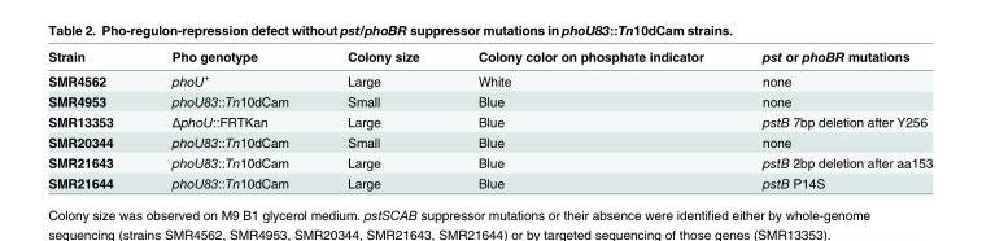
<table><thead><tr><td>Strain</td><td>Pho genotype</td><td>Colony size</td><td>Colony color on phosphate indicator</td><td>pst or phoBR mutations</td></tr></thead><tbody><tr><td>SMR4562</td><td>phoU<sup>+</sup></td><td>Large</td><td>White</td><td>none</td></tr><tr><td>SMR4953</td><td>phoU83::Tn10dCam</td><td>Small</td><td>Blue</td><td>none</td></tr><tr><td>SMR13353</td><td>ΔphoU::FRTKan</td><td>Large</td><td>Blue</td><td>pstB 7bp deletion after Y256</td></tr><tr><td>SMR20344</td><td>phoU83::Tn10dCam</td><td>Small</td><td>Blue</td><td>none</td></tr><tr><td>SMR21643</td><td>phoU83::Tn10dCam</td><td>Large</td><td>Blue</td><td>pstB 2bp deletion after aa153</td></tr><tr><td>SMR21644</td><td>phoU83::Tn10dCam</td><td>Large</td><td>Blue</td><td>pstB P14S</td></tr></tbody></table>